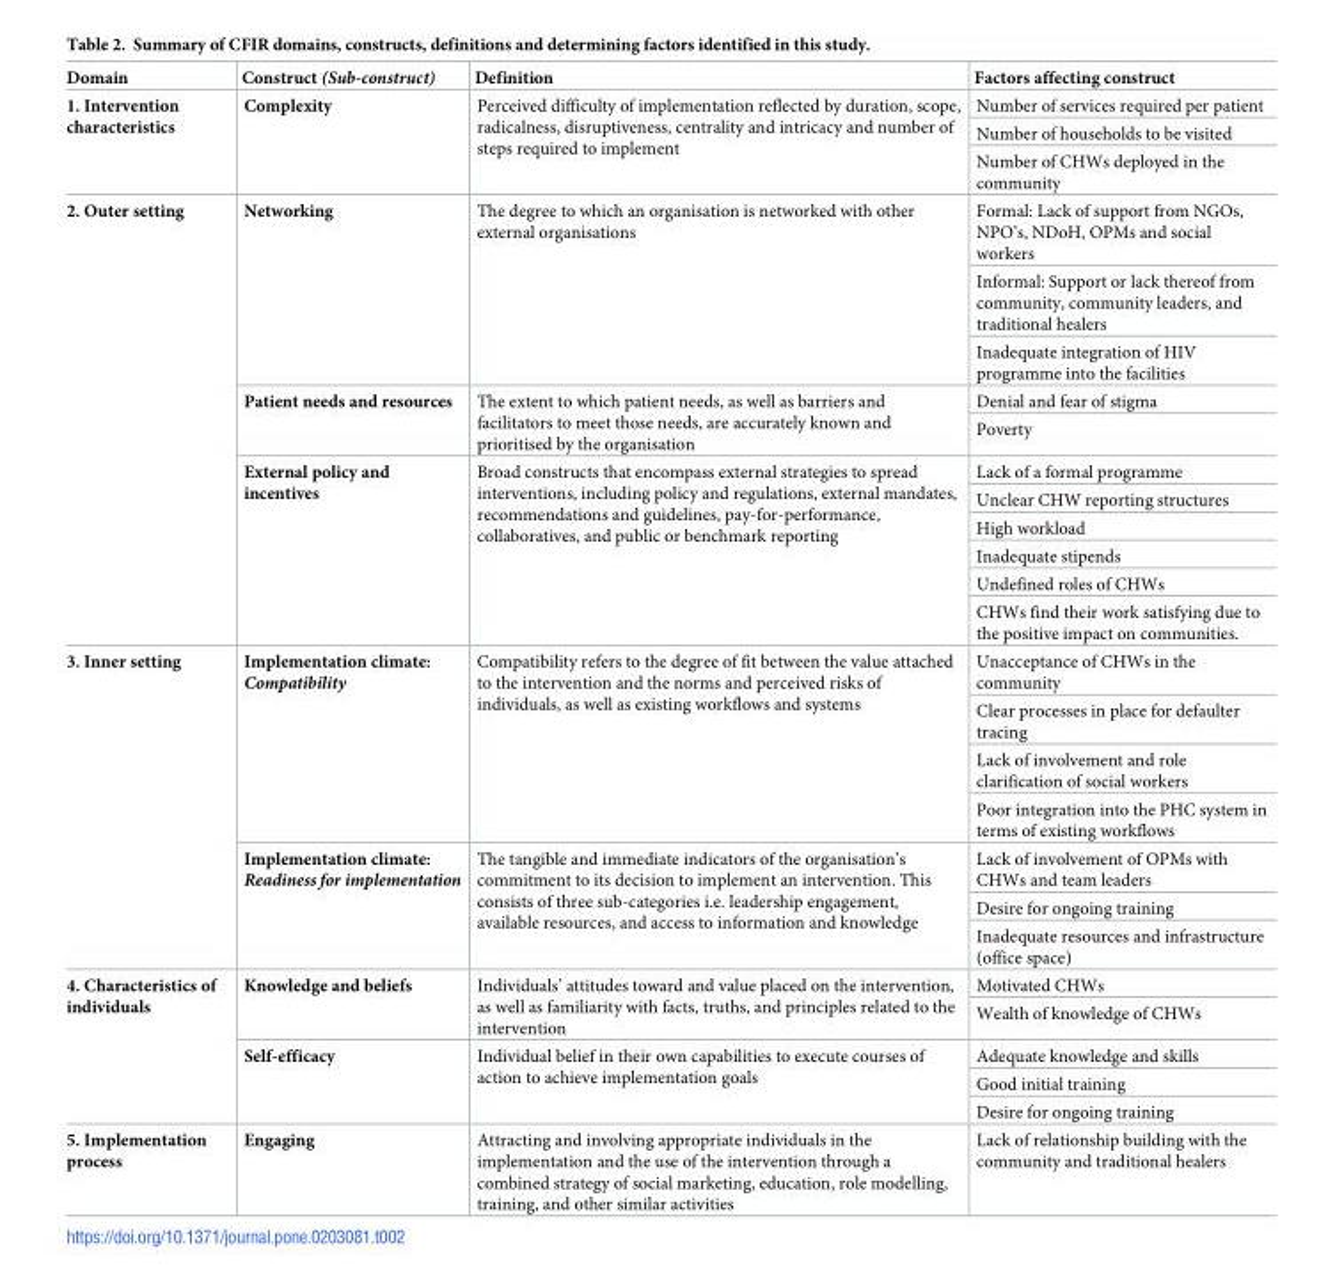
<table><thead><tr><td>Domain</td><td>Construct (Sub-construct)</td><td>Definition</td><td>Factors affecting construct</td></tr></thead><tbody><tr><td rowspan="3">1. Intervention characteristics</td><td rowspan="3">Complexity</td><td rowspan="3">Perceived difficulty of implementation reflected by duration, scope, radicalness, disruptiveness, centrality and intricacy and number of steps required to implement</td><td>Number of services required per patient</td></tr><tr><td>Number of households to be visited</td></tr><tr><td>Number of CHWs deployed in the community</td></tr><tr><td rowspan="11">2. Outer setting</td><td rowspan="3">Networking</td><td rowspan="3">The degree to which an organisation is networked with other external organisations</td><td>Formal: Lack of support from NGOs, NPO’s, NDoH, OPMs and social workers</td></tr><tr><td>Informal: Support or lack thereof from community, community leaders, and traditional healers</td></tr><tr><td>Inadequate integration of HIV programme into the facilities</td></tr><tr><td rowspan="2">Patient needs and resources</td><td rowspan="2">The extent to which patient needs, as well as barriers and facilitators to meet those needs, are accurately known and prioritised by the organisation</td><td>Denial and fear of stigma</td></tr><tr><td>Poverty</td></tr><tr><td rowspan="6">External policy and incentives</td><td rowspan="6">Broad constructs that encompass external strategies to spread interventions, including policy and regulations, external mandates, recommendations and guidelines, pay-for-performance, collaboratives, and public or benchmark reporting</td><td>Lack of a formal programme</td></tr><tr><td>Unclear CHW reporting structures</td></tr><tr><td>High workload</td></tr><tr><td>Inadequate stipends</td></tr><tr><td>Undefined roles of CHWs</td></tr><tr><td>CHWs find their work satisfying due to the positive impact on communities.</td></tr><tr><td rowspan="7">3. Inner setting</td><td rowspan="4">Implementation climate: Compatibility</td><td rowspan="4">Compatibility refers to the degree of fit between the value attached to the intervention and the norms and perceived risks of individuals, as well as existing workflows and systems</td><td>Unacceptance of CHWs in the community</td></tr><tr><td>Clear processes in place for defaulter tracing</td></tr><tr><td>Lack of involvement and role clarification of social workers</td></tr><tr><td>Poor integration into the PHC system in terms of existing workflows</td></tr><tr><td rowspan="3">Implementation climate: Readiness for implementation</td><td rowspan="3">The tangible and immediate indicators of the organisation’s commitment to its decision to implement an intervention. This consists of three sub-categories i.e. leadership engagement, available resources, and access to information and knowledge</td><td>Lack of involvement of OPMs with CHWs and team leaders</td></tr><tr><td>Desire for ongoing training</td></tr><tr><td>Inadequate resources and infrastructure (office space)</td></tr><tr><td rowspan="5">4. Characteristics of individuals</td><td rowspan="2">Knowledge and beliefs</td><td rowspan="2">Individuals’ attitudes toward and value placed on the intervention, as well as familiarity with facts, truths, and principles related to the intervention</td><td>Motivated CHWs</td></tr><tr><td>Wealth of knowledge of CHWs</td></tr><tr><td rowspan="3">Self-efficacy</td><td rowspan="3">Individual belief in their own capabilities to execute courses of action to achieve implementation goals</td><td>Adequate knowledge and skills</td></tr><tr><td>Good initial training</td></tr><tr><td>Desire for ongoing training</td></tr><tr><td>5. Implementation process</td><td>Engaging</td><td>Attracting and involving appropriate individuals in the implementation and the use of the intervention through a combined strategy of social marketing, education, role modelling, training, and other similar activities</td><td>Lack of relationship building with the community and traditional healers</td></tr></tbody></table>